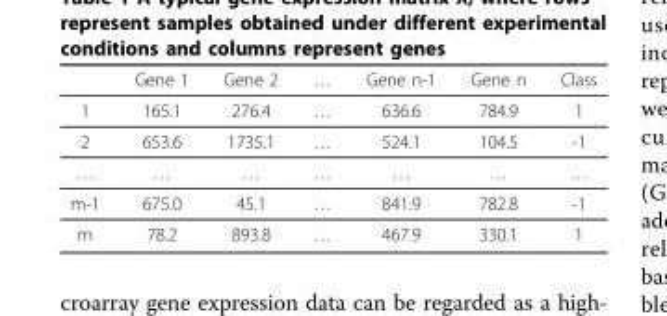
<table><thead><tr><td></td><td>Gene 1</td><td>Gene 2</td><td>…</td><td>Gene n-1</td><td>Gene n</td><td>Class</td></tr></thead><tbody><tr><td>1</td><td>165.1</td><td>276.4</td><td>…</td><td>636.6</td><td>784.9</td><td>1</td></tr><tr><td>2</td><td>653.6</td><td>1735.1</td><td>…</td><td>524.1</td><td>104.5</td><td>-1</td></tr><tr><td>…</td><td>…</td><td>…</td><td>…</td><td>…</td><td>…</td><td>…</td></tr><tr><td>m-1</td><td>675.0</td><td>45.1</td><td>…</td><td>841.9</td><td>782.8</td><td>-1</td></tr><tr><td>m</td><td>78.2</td><td>893.8</td><td>…</td><td>467.9</td><td>330.1</td><td>1</td></tr></tbody></table>